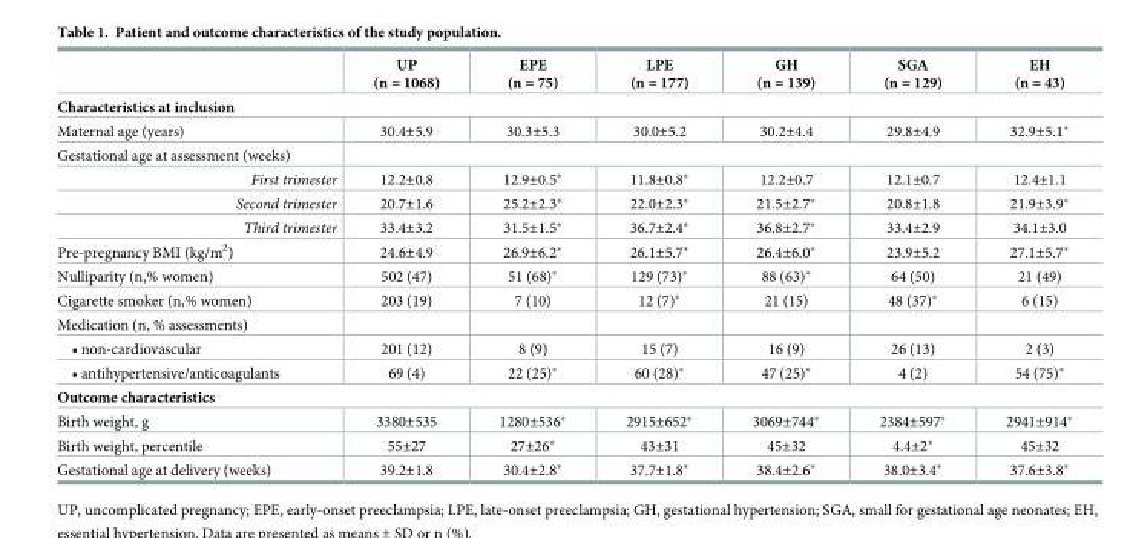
<table><thead><tr><td></td><td>UP (n = 1068)</td><td>EPE (n = 75)</td><td>LPE (n = 177)</td><td>GH (n = 139)</td><td>SGA (n = 129)</td><td>EH (n = 43)</td></tr></thead><tbody><tr><td colspan="7">Characteristics at inclusion</td></tr><tr><td>Maternal age (years)</td><td>30.4±5.9</td><td>30.3±5.3</td><td>30.0±5.2</td><td>30.2±4.4</td><td>29.8±4.9</td><td>32.9±5.1*</td></tr><tr><td colspan="7">Gestational age at assessment (weeks)</td></tr><tr><td>First trimester</td><td>12.2±0.8</td><td>12.9±0.5*</td><td>11.8±0.8*</td><td>12.2±0.7</td><td>12.1±0.7</td><td>12.4±1.1</td></tr><tr><td>Second trimester</td><td>20.7±1.6</td><td>25.2±2.3*</td><td>22.0±2.3*</td><td>21.5±2.7*</td><td>20.8±1.8</td><td>21.9±3.9*</td></tr><tr><td>Third trimester</td><td>33.4±3.2</td><td>31.5±1.5*</td><td>36.7±2.4*</td><td>36.8±2.7*</td><td>33.4±2.9</td><td>34.1±3.0</td></tr><tr><td>Pre-pregnancy BMI (kg/m<sup>2</sup>)</td><td>24.6±4.9</td><td>26.9±6.2*</td><td>26.1±5.7*</td><td>26.4±6.0*</td><td>23.9±5.2</td><td>27.1±5.7*</td></tr><tr><td>Nulliparity (n,% women)</td><td>502 (47)</td><td>51 (68)*</td><td>129 (73)*</td><td>88 (63)*</td><td>64 (50)</td><td>21 (49)</td></tr><tr><td>Cigarette smoker (n,% women)</td><td>203 (19)</td><td>7 (10)</td><td>12 (7)*</td><td>21 (15)</td><td>48 (37)*</td><td>6 (15)</td></tr><tr><td colspan="7">Medication (n, % assessments)</td></tr><tr><td>• non-cardiovascular</td><td>201 (12)</td><td>8 (9)</td><td>15 (7)</td><td>16 (9)</td><td>26 (13)</td><td>2 (3)</td></tr><tr><td>• antihypertensive/anticoagulants</td><td>69 (4)</td><td>22 (25)*</td><td>60 (28)*</td><td>47 (25)*</td><td>4 (2)</td><td>54 (75)*</td></tr><tr><td colspan="7">Outcome characteristics</td></tr><tr><td>Birth weight, g</td><td>3380±535</td><td>1280±536*</td><td>2915±652*</td><td>3069±744*</td><td>2384±597*</td><td>2941±914*</td></tr><tr><td>Birth weight, percentile</td><td>55±27</td><td>27±26*</td><td>43±31</td><td>45±32</td><td>4.4±2*</td><td>45±32</td></tr><tr><td>Gestational age at delivery (weeks)</td><td>39.2±1.8</td><td>30.4±2.8*</td><td>37.7±1.8*</td><td>38.4±2.6*</td><td>38.0±3.4*</td><td>37.6±3.8*</td></tr></tbody></table>